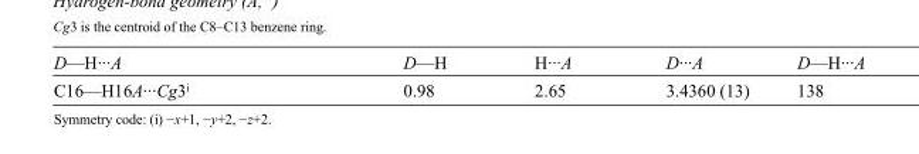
<table><tbody><tr><td>D—H···A</td><td>D—H</td><td>H···A</td><td>D···A</td><td>D—H···A</td></tr><tr><td>C16—H16A···Cg3<sup>i</sup></td><td>0.98</td><td>2.65</td><td>3.4360 (13)</td><td>138</td></tr></tbody></table>